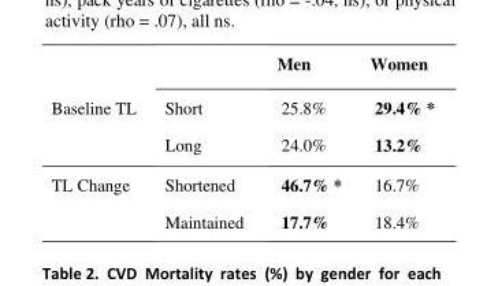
<table><thead><tr><td></td><td></td><td>Men</td><td>Women</td></tr></thead><tbody><tr><td rowspan="2">Baseline TL</td><td>Short</td><td>25.8%</td><td>29.4% *</td></tr><tr><td>Long</td><td>24.0%</td><td>13.2%</td></tr><tr><td rowspan="2">TL Change</td><td>Shortened</td><td>46.7% *</td><td>16.7%</td></tr><tr><td>Maintained</td><td>17.7%</td><td>18.4%</td></tr></tbody></table>